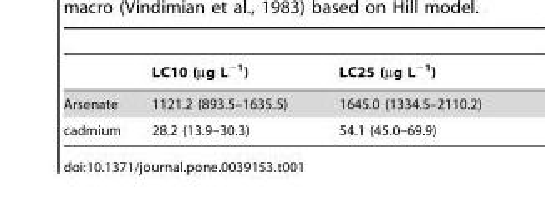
<table><thead><tr><td></td><td>LC10 (µg L<sup>−1</sup>)</td><td>LC25 (µg L<sup>−1</sup>)</td></tr></thead><tbody><tr><td>Arsenate</td><td>1121.2 (893.5–1635.5)</td><td>1645.0 (1334.5–2110.2)</td></tr><tr><td>cadmium</td><td>28.2 (13.9–30.3)</td><td>54.1 (45.0–69.9)</td></tr></tbody></table>